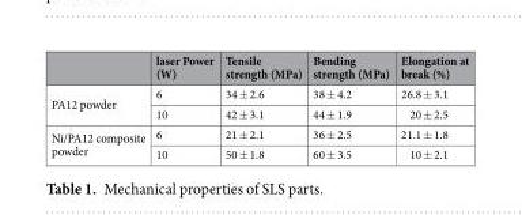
<table><thead><tr><td></td><td>laser Power (W)</td><td>Tensile strength (MPa)</td><td>Bending strength (MPa)</td><td>Elongation at break (%)</td></tr></thead><tbody><tr><td rowspan="2">PA12 powder</td><td>6</td><td>34 ± 2.6</td><td>38 ± 4.2</td><td>26.8 ± 3.1</td></tr><tr><td>10</td><td>42 ± 3.1</td><td>44 ± 1.9</td><td>20 ± 2.5</td></tr><tr><td rowspan="2">Ni/PA12 composite powder</td><td>6</td><td>21 ± 2.1</td><td>36 ± 2.5</td><td>21.1 ± 1.8</td></tr><tr><td>10</td><td>50 ± 1.8</td><td>60 ± 3.5</td><td>10 ± 2.1</td></tr></tbody></table>